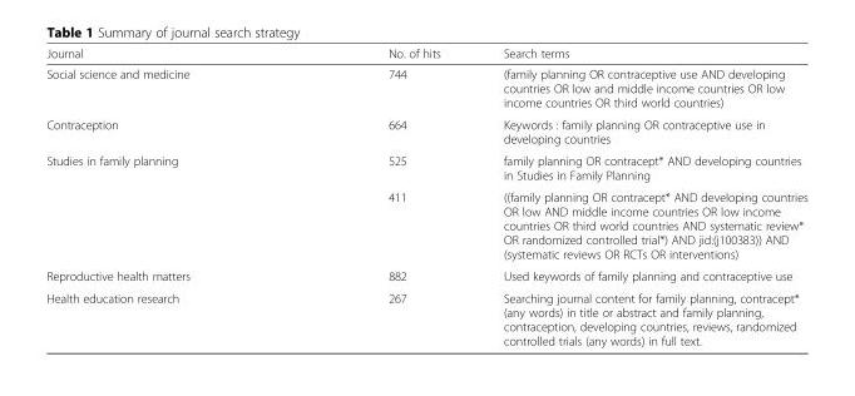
<table><thead><tr><td>Journal</td><td>No. of hits</td><td>Search terms</td></tr></thead><tbody><tr><td>Social science and medicine</td><td>744</td><td>(family planning OR contraceptive use AND developing countries OR low and middle income countries OR low income countries OR third world countries)</td></tr><tr><td>Contraception</td><td>664</td><td>Keywords : family planning OR contraceptive use in developing countries</td></tr><tr><td rowspan="2">Studies in family planning</td><td>525</td><td>family planning OR contracept* AND developing countries in Studies in Family Planning</td></tr><tr><td>411</td><td>((family planning OR contracept* AND developing countries OR low AND middle income countries OR low income countries OR third world countries AND systematic review* OR randomized controlled trial*) AND jid:(j100383)) AND (systematic reviews OR RCTs OR interventions)</td></tr><tr><td>Reproductive health matters</td><td>882</td><td>Used keywords of family planning and contraceptive use</td></tr><tr><td>Health education research</td><td>267</td><td>Searching journal content for family planning, contracept* (any words) in title or abstract and family planning, contraception, developing countries, reviews, randomized controlled trials (any words) in full text.</td></tr></tbody></table>